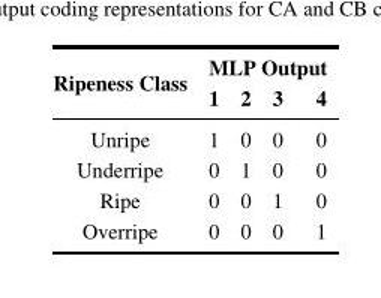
<table><thead><tr><td rowspan="2">Ripeness Class</td><td colspan="4">MLP Output</td></tr><tr><td>1</td><td>2</td><td>3</td><td>4</td></tr></thead><tbody><tr><td>Unripe</td><td>1</td><td>0</td><td>0</td><td>0</td></tr><tr><td>Underripe</td><td>0</td><td>1</td><td>0</td><td>0</td></tr><tr><td>Ripe</td><td>0</td><td>0</td><td>1</td><td>0</td></tr><tr><td>Overripe</td><td>0</td><td>0</td><td>0</td><td>1</td></tr></tbody></table>